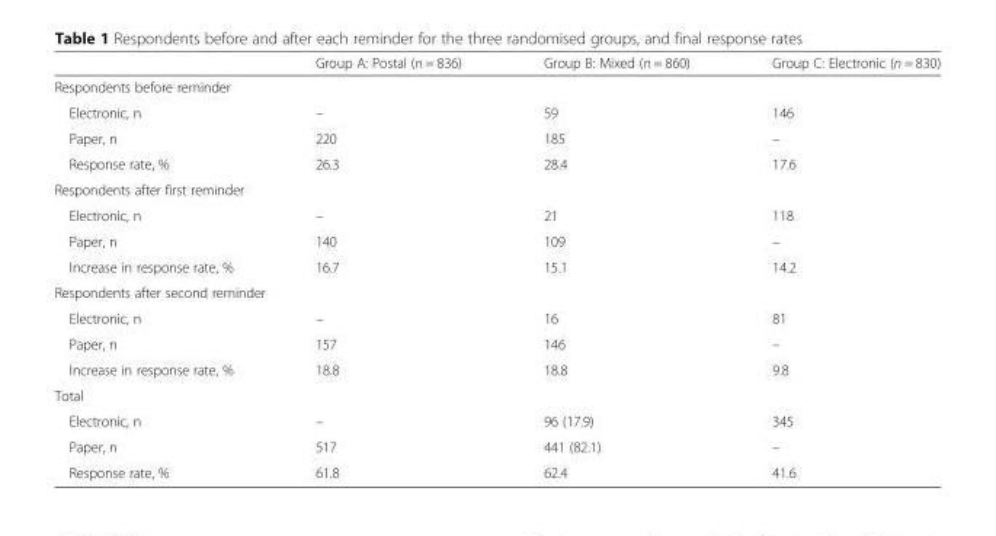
<table><thead><tr><td></td><td>Group A: Postal (n = 836)</td><td>Group B: Mixed (n = 860)</td><td>Group C: Electronic (n = 830)</td></tr></thead><tbody><tr><td colspan="4">Respondents before reminder</td></tr><tr><td>Electronic, n</td><td>–</td><td>59</td><td>146</td></tr><tr><td>Paper, n</td><td>220</td><td>185</td><td>–</td></tr><tr><td>Response rate, %</td><td>26.3</td><td>28.4</td><td>17.6</td></tr><tr><td colspan="4">Respondents after first reminder</td></tr><tr><td>Electronic, n</td><td>–</td><td>21</td><td>118</td></tr><tr><td>Paper, n</td><td>140</td><td>109</td><td>–</td></tr><tr><td>Increase in response rate, %</td><td>16.7</td><td>15.1</td><td>14.2</td></tr><tr><td colspan="4">Respondents after second reminder</td></tr><tr><td>Electronic, n</td><td>–</td><td>16</td><td>81</td></tr><tr><td>Paper, n</td><td>157</td><td>146</td><td>–</td></tr><tr><td>Increase in response rate, %</td><td>18.8</td><td>18.8</td><td>9.8</td></tr><tr><td colspan="4">Total</td></tr><tr><td>Electronic, n</td><td>–</td><td>96 (17.9)</td><td>345</td></tr><tr><td>Paper, n</td><td>517</td><td>441 (82.1)</td><td>–</td></tr><tr><td>Response rate, %</td><td>61.8</td><td>62.4</td><td>41.6</td></tr></tbody></table>